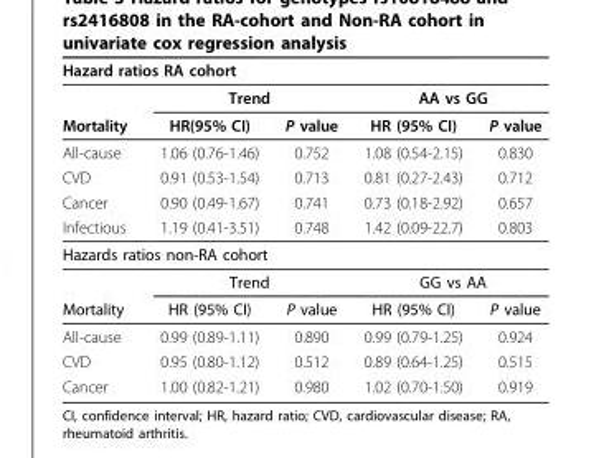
<table><thead><tr><td colspan="5">Hazard ratios RA cohort</td></tr><tr><td rowspan="2">Mortality</td><td colspan="2">Trend</td><td colspan="2">AA vs GG</td></tr><tr><td>HR(95% CI)</td><td>P value</td><td>HR (95% CI)</td><td>P value</td></tr></thead><tbody><tr><td>All-cause</td><td>1.06 (0.76-1.46)</td><td>0.752</td><td>1.08 (0.54-2.15)</td><td>0.830</td></tr><tr><td>CVD</td><td>0.91 (0.53-1.54)</td><td>0.713</td><td>0.81 (0.27-2.43)</td><td>0.712</td></tr><tr><td>Cancer</td><td>0.90 (0.49-1.67)</td><td>0.741</td><td>0.73 (0.18-2.92)</td><td>0.657</td></tr><tr><td>Infectious</td><td>1.19 (0.41-3.51)</td><td>0.748</td><td>1.42 (0.09-22.7)</td><td>0.803</td></tr><tr><td colspan="5">Hazards ratios non-RA cohort</td></tr><tr><td></td><td colspan="2">Trend</td><td colspan="2">GG vs AA</td></tr><tr><td>Mortality</td><td>HR (95% CI)</td><td>P value</td><td>HR (95% CI)</td><td>P value</td></tr><tr><td>All-cause</td><td>0.99 (0.89-1.11)</td><td>0.890</td><td>0.99 (0.79-1.25)</td><td>0.924</td></tr><tr><td>CVD</td><td>0.95 (0.80-1.12)</td><td>0.512</td><td>0.89 (0.64-1.25)</td><td>0.515</td></tr><tr><td>Cancer</td><td>1.00 (0.82-1.21)</td><td>0.980</td><td>1.02 (0.70-1.50)</td><td>0.919</td></tr></tbody></table>